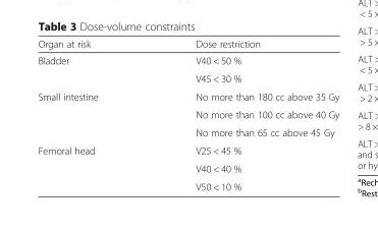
<table><thead><tr><td>Organ at risk</td><td>Dose restriction</td></tr></thead><tbody><tr><td rowspan="2">Bladder</td><td>V40 &lt; 50 %</td></tr><tr><td>V45 &lt; 30 %</td></tr><tr><td rowspan="3">Small intestine</td><td>No more than 180 cc above 35 Gy</td></tr><tr><td>No more than 100 cc above 40 Gy</td></tr><tr><td>No more than 65 cc above 45 Gy</td></tr><tr><td rowspan="3">Femoral head</td><td>V25 &lt; 45 %</td></tr><tr><td>V40 &lt; 40 %</td></tr><tr><td>V50 &lt; 10 %</td></tr></tbody></table>